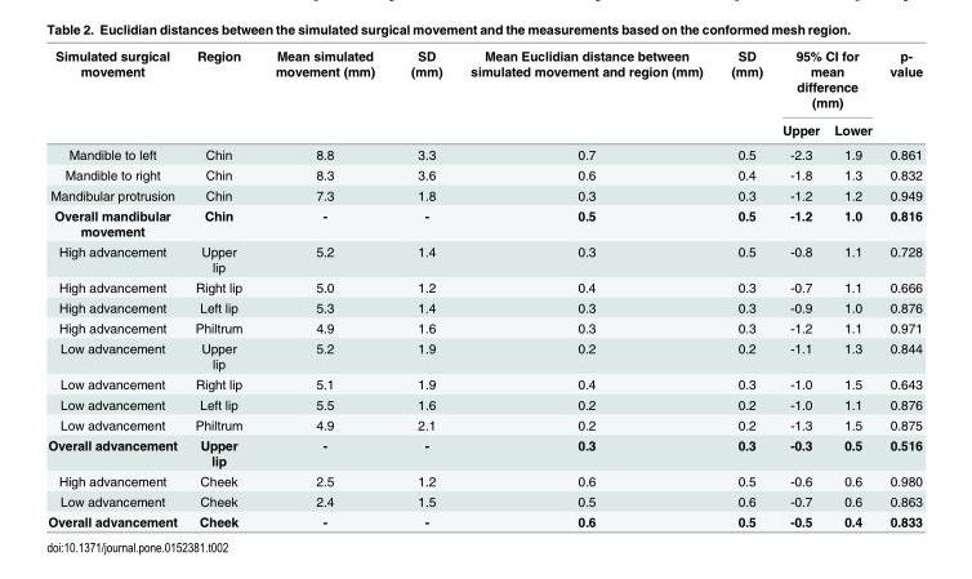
<table><thead><tr><td rowspan="2">Simulated surgical movement</td><td rowspan="2">Region</td><td rowspan="2">Mean simulated movement (mm)</td><td rowspan="2">SD (mm)</td><td rowspan="2">Mean Euclidian distance between simulated movement and region (mm)</td><td rowspan="2">SD (mm)</td><td colspan="2">95% CI for mean difference (mm)</td><td rowspan="2">p- value</td></tr><tr><td>Upper</td><td>Lower</td></tr></thead><tbody><tr><td>Mandible to left</td><td>Chin</td><td>8.8</td><td>3.3</td><td>0.7</td><td>0.5</td><td>-2.3</td><td>1.9</td><td>0.861</td></tr><tr><td>Mandible to right</td><td>Chin</td><td>8.3</td><td>3.6</td><td>0.6</td><td>0.4</td><td>-1.8</td><td>1.3</td><td>0.832</td></tr><tr><td>Mandibular protrusion</td><td>Chin</td><td>7.3</td><td>1.8</td><td>0.3</td><td>0.3</td><td>-1.2</td><td>1.2</td><td>0.949</td></tr><tr><td>Overall mandibular movement</td><td>Chin</td><td>-</td><td>-</td><td>0.5</td><td>0.5</td><td>-1.2</td><td>1.0</td><td>0.816</td></tr><tr><td>High advancement</td><td>Upper lip</td><td>5.2</td><td>1.4</td><td>0.3</td><td>0.5</td><td>-0.8</td><td>1.1</td><td>0.728</td></tr><tr><td>High advancement</td><td>Right lip</td><td>5.0</td><td>1.2</td><td>0.4</td><td>0.3</td><td>-0.7</td><td>1.1</td><td>0.666</td></tr><tr><td>High advancement</td><td>Left lip</td><td>5.3</td><td>1.4</td><td>0.3</td><td>0.3</td><td>-0.9</td><td>1.0</td><td>0.876</td></tr><tr><td>High advancement</td><td>Philtrum</td><td>4.9</td><td>1.6</td><td>0.3</td><td>0.3</td><td>-1.2</td><td>1.1</td><td>0.971</td></tr><tr><td>Low advancement</td><td>Upper lip</td><td>5.2</td><td>1.9</td><td>0.2</td><td>0.2</td><td>-1.1</td><td>1.3</td><td>0.844</td></tr><tr><td>Low advancement</td><td>Right lip</td><td>5.1</td><td>1.9</td><td>0.4</td><td>0.3</td><td>-1.0</td><td>1.5</td><td>0.643</td></tr><tr><td>Low advancement</td><td>Left lip</td><td>5.5</td><td>1.6</td><td>0.2</td><td>0.2</td><td>-1.0</td><td>1.1</td><td>0.876</td></tr><tr><td>Low advancement</td><td>Philtrum</td><td>4.9</td><td>2.1</td><td>0.2</td><td>0.2</td><td>-1.3</td><td>1.5</td><td>0.875</td></tr><tr><td>Overall advancement</td><td>Upper lip</td><td>-</td><td>-</td><td>0.3</td><td>0.3</td><td>-0.3</td><td>0.5</td><td>0.516</td></tr><tr><td>High advancement</td><td>Cheek</td><td>2.5</td><td>1.2</td><td>0.6</td><td>0.5</td><td>-0.6</td><td>0.6</td><td>0.980</td></tr><tr><td>Low advancement</td><td>Cheek</td><td>2.4</td><td>1.5</td><td>0.5</td><td>0.6</td><td>-0.7</td><td>0.6</td><td>0.863</td></tr><tr><td>Overall advancement</td><td>Cheek</td><td>-</td><td>-</td><td>0.6</td><td>0.5</td><td>-0.5</td><td>0.4</td><td>0.833</td></tr></tbody></table>